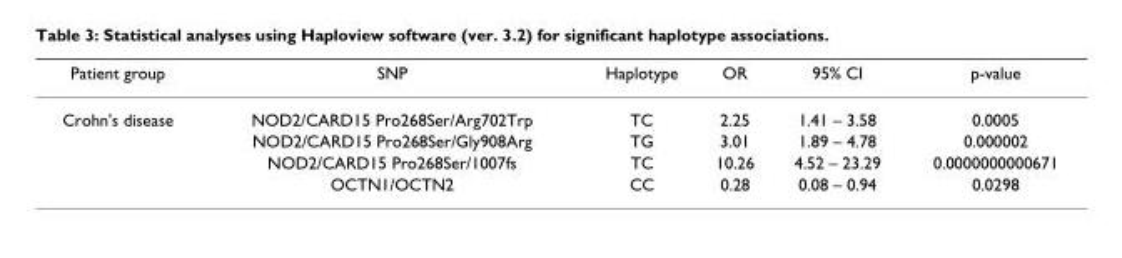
<table><thead><tr><td>Patient group</td><td>SNP</td><td>Haplotype</td><td>OR</td><td>95% CI</td><td>p-value</td></tr></thead><tbody><tr><td rowspan="4">Crohn&#x27;s disease</td><td>NOD2/CARD15 Pro268Ser/Arg702Trp</td><td>TC</td><td>2.25</td><td>1.41 – 3.58</td><td>0.0005</td></tr><tr><td>NOD2/CARD15 Pro268Ser/Gly908Arg</td><td>TG</td><td>3.01</td><td>1.89 – 4.78</td><td>0.000002</td></tr><tr><td>NOD2/CARD15 Pro268Ser/1007fs</td><td>TC</td><td>10.26</td><td>4.52 – 23.29</td><td>0.0000000000671</td></tr><tr><td>OCTN1/OCTN2</td><td>CC</td><td>0.28</td><td>0.08 – 0.94</td><td>0.0298</td></tr></tbody></table>